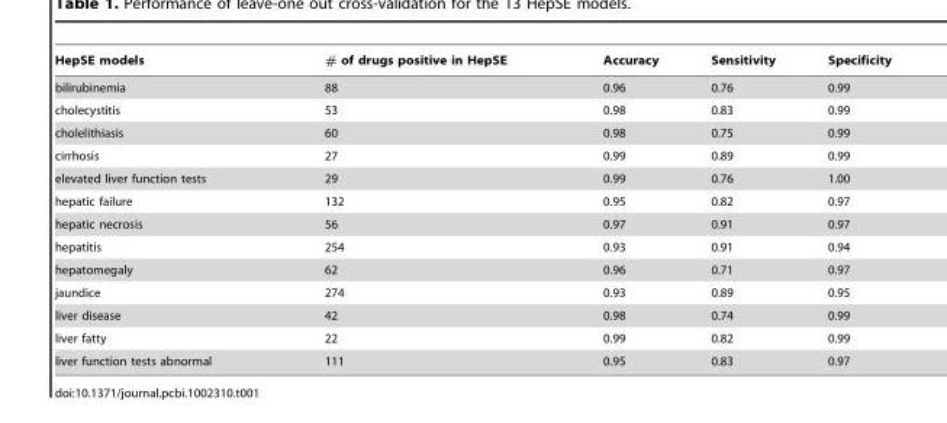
<table><thead><tr><td>HepSE models</td><td># of drugs positive in HepSE</td><td>Accuracy</td><td>Sensitivity</td><td>Specificity</td></tr></thead><tbody><tr><td>bilirubinemia</td><td>88</td><td>0.96</td><td>0.76</td><td>0.99</td></tr><tr><td>cholecystitis</td><td>53</td><td>0.98</td><td>0.83</td><td>0.99</td></tr><tr><td>cholelithiasis</td><td>60</td><td>0.98</td><td>0.75</td><td>0.99</td></tr><tr><td>cirrhosis</td><td>27</td><td>0.99</td><td>0.89</td><td>0.99</td></tr><tr><td>elevated liver function tests</td><td>29</td><td>0.99</td><td>0.76</td><td>1.00</td></tr><tr><td>hepatic failure</td><td>132</td><td>0.95</td><td>0.82</td><td>0.97</td></tr><tr><td>hepatic necrosis</td><td>56</td><td>0.97</td><td>0.91</td><td>0.97</td></tr><tr><td>hepatitis</td><td>254</td><td>0.93</td><td>0.91</td><td>0.94</td></tr><tr><td>hepatomegaly</td><td>62</td><td>0.96</td><td>0.71</td><td>0.97</td></tr><tr><td>jaundice</td><td>274</td><td>0.93</td><td>0.89</td><td>0.95</td></tr><tr><td>liver disease</td><td>42</td><td>0.98</td><td>0.74</td><td>0.99</td></tr><tr><td>liver fatty</td><td>22</td><td>0.99</td><td>0.82</td><td>0.99</td></tr><tr><td>liver function tests abnormal</td><td>111</td><td>0.95</td><td>0.83</td><td>0.97</td></tr></tbody></table>